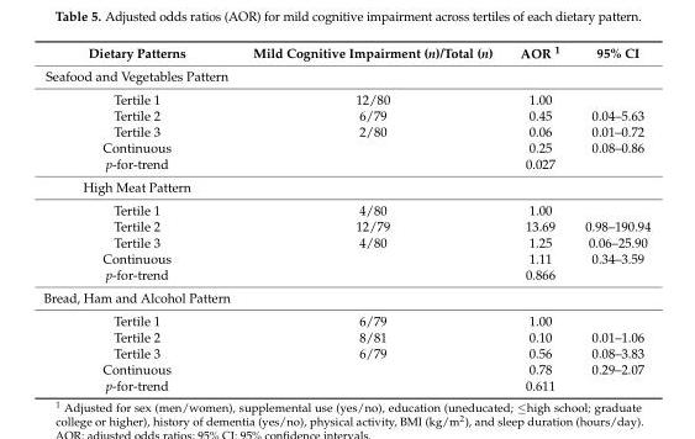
<table><thead><tr><td>Dietary Patterns</td><td>Mild Cognitive Impairment (n)/Total (n)</td><td>AOR <sup>1</sup></td><td>95% CI</td></tr></thead><tbody><tr><td colspan="4">Seafood and Vegetables Pattern</td></tr><tr><td>Tertile 1</td><td>12/80</td><td>1.00</td><td></td></tr><tr><td>Tertile 2</td><td>6/79</td><td>0.45</td><td>0.04–5.63</td></tr><tr><td>Tertile 3</td><td>2/80</td><td>0.06</td><td>0.01–0.72</td></tr><tr><td>Continuous</td><td></td><td>0.25</td><td>0.08–0.86</td></tr><tr><td>p-for-trend</td><td></td><td>0.027</td><td></td></tr><tr><td colspan="4">High Meat Pattern</td></tr><tr><td>Tertile 1</td><td>4/80</td><td>1.00</td><td></td></tr><tr><td>Tertile 2</td><td>12/79</td><td>13.69</td><td>0.98–190.94</td></tr><tr><td>Tertile 3</td><td>4/80</td><td>1.25</td><td>0.06–25.90</td></tr><tr><td>Continuous</td><td></td><td>1.11</td><td>0.34–3.59</td></tr><tr><td>p-for-trend</td><td></td><td>0.866</td><td></td></tr><tr><td colspan="4">Bread, Ham and Alcohol Pattern</td></tr><tr><td>Tertile 1</td><td>6/79</td><td>1.00</td><td></td></tr><tr><td>Tertile 2</td><td>8/81</td><td>0.10</td><td>0.01–1.06</td></tr><tr><td>Tertile 3</td><td>6/79</td><td>0.56</td><td>0.08–3.83</td></tr><tr><td>Continuous</td><td></td><td>0.78</td><td>0.29–2.07</td></tr><tr><td>p-for-trend</td><td></td><td>0.611</td><td></td></tr></tbody></table>